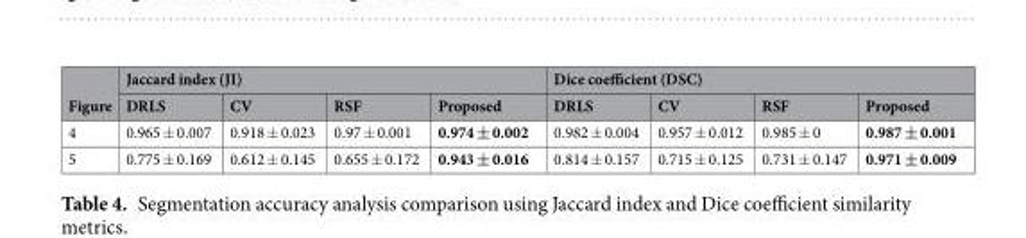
<table><thead><tr><td rowspan="2">Figure</td><td colspan="4">Jaccard index (JI)</td><td colspan="4">Dice coefficient (DSC)</td></tr><tr><td>DRLS</td><td>CV</td><td>RSF</td><td>Proposed</td><td>DRLS</td><td>CV</td><td>RSF</td><td>Proposed</td></tr></thead><tbody><tr><td>4</td><td>0.965 ± 0.007</td><td>0.918 ± 0.023</td><td>0.97 ± 0.001</td><td>0.974 ± 0.002</td><td>0.982 ± 0.004</td><td>0.957 ± 0.012</td><td>0.985 ± 0</td><td>0.987 ± 0.001</td></tr><tr><td>5</td><td>0.775 ± 0.169</td><td>0.612 ± 0.145</td><td>0.655 ± 0.172</td><td>0.943 ± 0.016</td><td>0.814 ± 0.157</td><td>0.715 ± 0.125</td><td>0.731 ± 0.147</td><td>0.971 ± 0.009</td></tr></tbody></table>